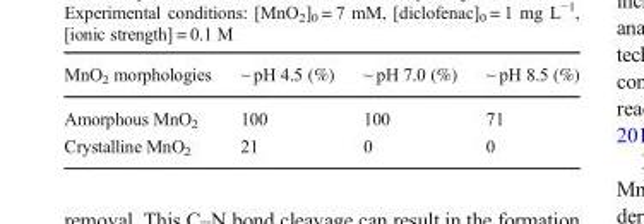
<table><thead><tr><td>MnO<sub>2</sub> morphologies</td><td>~ pH 4.5 (%)</td><td>~ pH 7.0 (%)</td><td>~ pH 8.5 (%)</td></tr></thead><tbody><tr><td>Amorphous MnO<sub>2</sub></td><td>100</td><td>100</td><td>71</td></tr><tr><td>Crystalline MnO<sub>2</sub></td><td>21</td><td>0</td><td>0</td></tr></tbody></table>